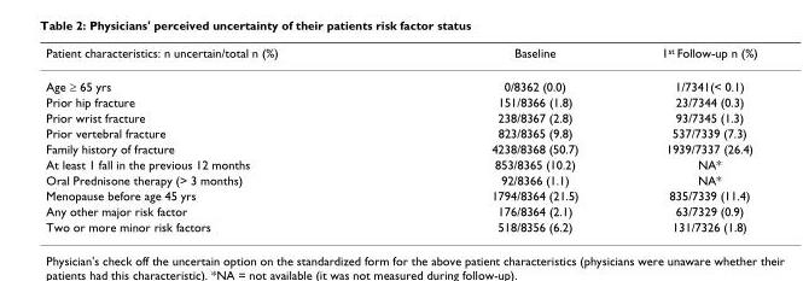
<table><thead><tr><td>Patient characteristics: n uncertain/total n (%)</td><td>Baseline</td><td>1<sup>st</sup> Follow-up n (%)</td></tr></thead><tbody><tr><td>Age ≥ 65 yrs</td><td>0/8362 (0.0)</td><td>1/7341(&lt; 0.1)</td></tr><tr><td>Prior hip fracture</td><td>151/8366 (1.8)</td><td>23/7344 (0.3)</td></tr><tr><td>Prior wrist fracture</td><td>238/8367 (2.8)</td><td>93/7345 (1.3)</td></tr><tr><td>Prior vertebral fracture</td><td>823/8365 (9.8)</td><td>537/7339 (7.3)</td></tr><tr><td>Family history of fracture</td><td>4238/8368 (50.7)</td><td>1939/7337 (26.4)</td></tr><tr><td>At least 1 fall in the previous 12 months</td><td>853/8365 (10.2)</td><td>NA*</td></tr><tr><td>Oral Prednisone therapy (&gt; 3 months)</td><td>92/8366 (1.1)</td><td>NA*</td></tr><tr><td>Menopause before age 45 yrs</td><td>1794/8364 (21.5)</td><td>835/7339 (11.4)</td></tr><tr><td>Any other major risk factor</td><td>176/8364 (2.1)</td><td>63/7329 (0.9)</td></tr><tr><td>Two or more minor risk factors</td><td>518/8356 (6.2)</td><td>131/7326 (1.8)</td></tr></tbody></table>